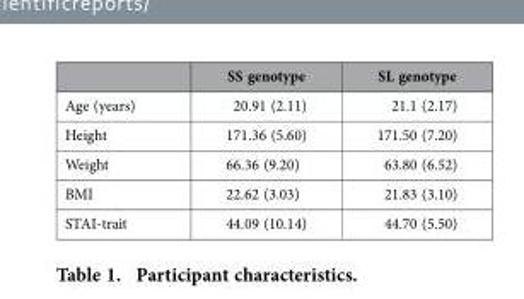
<table><thead><tr><td></td><td>SS genotype</td><td>SL genotype</td></tr></thead><tbody><tr><td>Age (years)</td><td>20.91 (2.11)</td><td>21.1 (2.17)</td></tr><tr><td>Height</td><td>171.36 (5.60)</td><td>171.50 (7.20)</td></tr><tr><td>Weight</td><td>66.36 (9.20)</td><td>63.80 (6.52)</td></tr><tr><td>BMI</td><td>22.62 (3.03)</td><td>21.83 (3.10)</td></tr><tr><td>STAI-trait</td><td>44.09 (10.14)</td><td>44.70 (5.50)</td></tr></tbody></table>